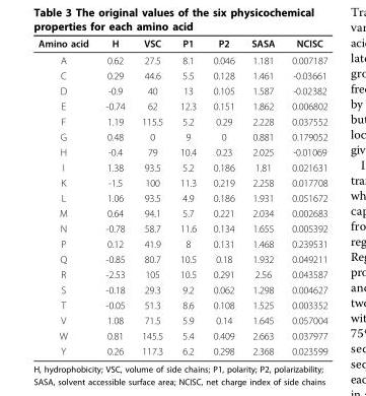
<table><thead><tr><td>Amino acid</td><td>H</td><td>VSC</td><td>P1</td><td>P2</td><td>SASA</td><td>NCISC</td></tr></thead><tbody><tr><td>A</td><td>0.62</td><td>27.5</td><td>8.1</td><td>0.046</td><td>1.181</td><td>0.007187</td></tr><tr><td>C</td><td>0.29</td><td>44.6</td><td>5.5</td><td>0.128</td><td>1.461</td><td>-0.03661</td></tr><tr><td>D</td><td>-0.9</td><td>40</td><td>13</td><td>0.105</td><td>1.587</td><td>-0.02382</td></tr><tr><td>E</td><td>-0.74</td><td>62</td><td>12.3</td><td>0.151</td><td>1.862</td><td>0.006802</td></tr><tr><td>F</td><td>1.19</td><td>115.5</td><td>5.2</td><td>0.29</td><td>2.228</td><td>0.037552</td></tr><tr><td>G</td><td>0.48</td><td>0</td><td>9</td><td>0</td><td>0.881</td><td>0.179052</td></tr><tr><td>H</td><td>-0.4</td><td>79</td><td>10.4</td><td>0.23</td><td>2.025</td><td>-0.01069</td></tr><tr><td>I</td><td>1.38</td><td>93.5</td><td>5.2</td><td>0.186</td><td>1.81</td><td>0.021631</td></tr><tr><td>K</td><td>-1.5</td><td>100</td><td>11.3</td><td>0.219</td><td>2.258</td><td>0.017708</td></tr><tr><td>L</td><td>1.06</td><td>93.5</td><td>4.9</td><td>0.186</td><td>1.931</td><td>0.051672</td></tr><tr><td>M</td><td>0.64</td><td>94.1</td><td>5.7</td><td>0.221</td><td>2.034</td><td>0.002683</td></tr><tr><td>N</td><td>-0.78</td><td>58.7</td><td>11.6</td><td>0.134</td><td>1.655</td><td>0.005392</td></tr><tr><td>P</td><td>0.12</td><td>41.9</td><td>8</td><td>0.131</td><td>1.468</td><td>0.239531</td></tr><tr><td>Q</td><td>-0.85</td><td>80.7</td><td>10.5</td><td>0.18</td><td>1.932</td><td>0.049211</td></tr><tr><td>R</td><td>-2.53</td><td>105</td><td>10.5</td><td>0.291</td><td>2.56</td><td>0.043587</td></tr><tr><td>S</td><td>-0.18</td><td>29.3</td><td>9.2</td><td>0.062</td><td>1.298</td><td>0.004627</td></tr><tr><td>T</td><td>-0.05</td><td>51.3</td><td>8.6</td><td>0.108</td><td>1.525</td><td>0.003352</td></tr><tr><td>V</td><td>1.08</td><td>71.5</td><td>5.9</td><td>0.14</td><td>1.645</td><td>0.057004</td></tr><tr><td>W</td><td>0.81</td><td>145.5</td><td>5.4</td><td>0.409</td><td>2.663</td><td>0.037977</td></tr><tr><td>Y</td><td>0.26</td><td>117.3</td><td>6.2</td><td>0.298</td><td>2.368</td><td>0.023599</td></tr></tbody></table>